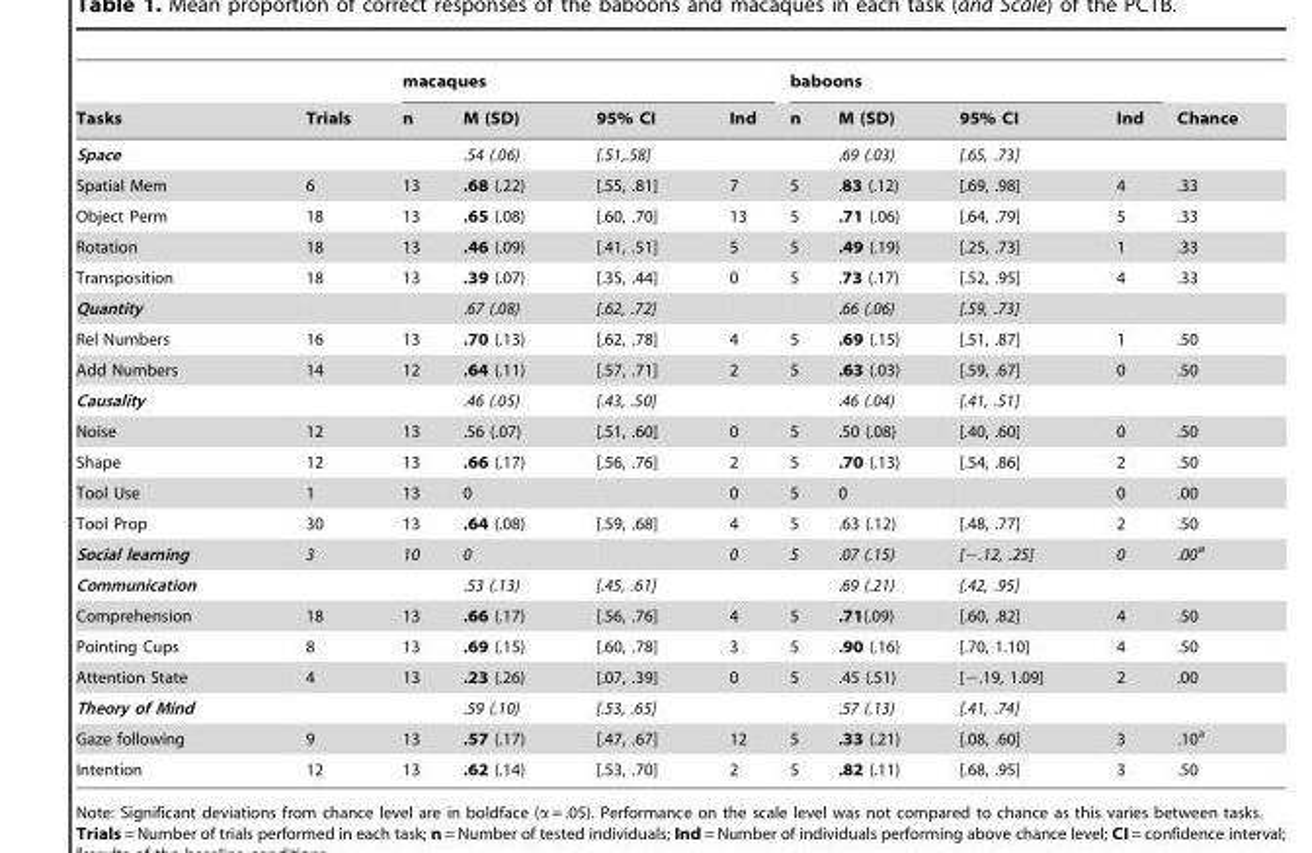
<table><thead><tr><td rowspan="2">Tasks</td><td rowspan="2">Trials</td><td colspan="4">macaques</td><td colspan="4">baboons</td><td rowspan="2">Chance</td></tr><tr><td>n</td><td>M (SD)</td><td>95% CI</td><td>Ind</td><td>n</td><td>M (SD)</td><td>95% CI</td><td>Ind</td></tr></thead><tbody><tr><td>Space</td><td></td><td></td><td>.54 (.06)</td><td>[.51,.58]</td><td></td><td></td><td>.69 (.03)</td><td>[.65, .73]</td><td></td><td></td></tr><tr><td>Spatial Mem</td><td>6</td><td>13</td><td>.68 (.22)</td><td>[.55, .81]</td><td>7</td><td>5</td><td>.83 (.12)</td><td>[.69, .98]</td><td>4</td><td>.33</td></tr><tr><td>Object Perm</td><td>18</td><td>13</td><td>.65 (.08)</td><td>[.60, .70]</td><td>13</td><td>5</td><td>.71 (.06)</td><td>[.64, .79]</td><td>5</td><td>.33</td></tr><tr><td>Rotation</td><td>18</td><td>13</td><td>.46 (.09)</td><td>[.41, .51]</td><td>5</td><td>5</td><td>.49 (.19)</td><td>[.25, .73]</td><td>1</td><td>.33</td></tr><tr><td>Transposition</td><td>18</td><td>13</td><td>.39 (.07)</td><td>[.35, .44]</td><td>0</td><td>5</td><td>.73 (.17)</td><td>[.52, .95]</td><td>4</td><td>.33</td></tr><tr><td>Quantity</td><td></td><td></td><td>.67 (.08)</td><td>[.62, .72]</td><td></td><td></td><td>.66 (.06)</td><td>[.59, .73]</td><td></td><td></td></tr><tr><td>Rel Numbers</td><td>16</td><td>13</td><td>.70 (.13)</td><td>[.62, .78]</td><td>4</td><td>5</td><td>.69 (.15)</td><td>[.51, .87]</td><td>1</td><td>.50</td></tr><tr><td>Add Numbers</td><td>14</td><td>12</td><td>.64 (.11)</td><td>[.57, .71]</td><td>2</td><td>5</td><td>.63 (.03)</td><td>[.59, .67]</td><td>0</td><td>.50</td></tr><tr><td>Causality</td><td></td><td></td><td>.46 (.05)</td><td>[.43, .50]</td><td></td><td></td><td>.46 (.04)</td><td>[.41, .51]</td><td></td><td></td></tr><tr><td>Noise</td><td>12</td><td>13</td><td>.56 (.07)</td><td>[.51, .60]</td><td>0</td><td>5</td><td>.50 (.08)</td><td>[.40, .60]</td><td>0</td><td>.50</td></tr><tr><td>Shape</td><td>12</td><td>13</td><td>.66 (.17)</td><td>[.56, .76]</td><td>2</td><td>5</td><td>.70 (.13)</td><td>[.54, .86]</td><td>2</td><td>.50</td></tr><tr><td>Tool Use</td><td>1</td><td>13</td><td>0</td><td></td><td>0</td><td>5</td><td>0</td><td></td><td>0</td><td>.00</td></tr><tr><td>Tool Prop</td><td>30</td><td>13</td><td>.64 (.08)</td><td>[.59, .68]</td><td>4</td><td>5</td><td>.63 (.12)</td><td>[.48, .77]</td><td>2</td><td>.50</td></tr><tr><td>Social learning</td><td>3</td><td>10</td><td>0</td><td></td><td>0</td><td>5</td><td>.07 (.15)</td><td>[−.12, .25]</td><td>0</td><td>.00a</td></tr><tr><td>Communication</td><td></td><td></td><td>.53 (.13)</td><td>[.45, .61]</td><td></td><td></td><td>.69 (.21)</td><td>[.42, .95]</td><td></td><td></td></tr><tr><td>Comprehension</td><td>18</td><td>13</td><td>.66 (.17)</td><td>[.56, .76]</td><td>4</td><td>5</td><td>.71(.09)</td><td>[.60, .82]</td><td>4</td><td>.50</td></tr><tr><td>Pointing Cups</td><td>8</td><td>13</td><td>.69 (.15)</td><td>[.60, .78]</td><td>3</td><td>5</td><td>.90 (.16)</td><td>[.70, 1.10]</td><td>4</td><td>.50</td></tr><tr><td>Attention State</td><td>4</td><td>13</td><td>.23 (.26)</td><td>[.07, .39]</td><td>0</td><td>5</td><td>.45 (.51)</td><td>[−.19, 1.09]</td><td>2</td><td>.00</td></tr><tr><td>Theory of Mind</td><td></td><td></td><td>.59 (.10)</td><td>[.53, .65]</td><td></td><td></td><td>.57 (.13)</td><td>[.41, .74]</td><td></td><td></td></tr><tr><td>Gaze following</td><td>9</td><td>13</td><td>.57 (.17)</td><td>[.47, .67]</td><td>12</td><td>5</td><td>.33 (.21)</td><td>[.08, .60]</td><td>3</td><td>.10<sup>a</sup></td></tr><tr><td>Intention</td><td>12</td><td>13</td><td>.62 (.14)</td><td>[.53, .70]</td><td>2</td><td>5</td><td>.82 (.11)</td><td>[.68, .95]</td><td>3</td><td>.50</td></tr></tbody></table>